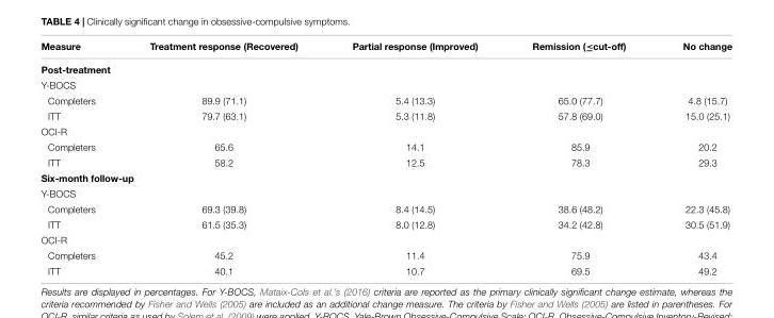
<table><thead><tr><td>Measure</td><td>Treatment response (Recovered)</td><td>Partial response (Improved)</td><td>Remission (≤cut-off)</td><td>No change</td></tr></thead><tbody><tr><td colspan="5">Post-treatment</td></tr><tr><td colspan="5">Y-BOCS</td></tr><tr><td>Completers</td><td>89.9 (71.1)</td><td>5.4 (13.3)</td><td>65.0 (77.7)</td><td>4.8 (15.7)</td></tr><tr><td>ITT</td><td>79.7 (63.1)</td><td>5.3 (11.8)</td><td>57.8 (69.0)</td><td>15.0 (25.1)</td></tr><tr><td colspan="5">OCI-R</td></tr><tr><td>Completers</td><td>65.6</td><td>14.1</td><td>85.9</td><td>20.2</td></tr><tr><td>ITT</td><td>58.2</td><td>12.5</td><td>78.3</td><td>29.3</td></tr><tr><td colspan="5">Six-month follow-up</td></tr><tr><td colspan="5">Y-BOCS</td></tr><tr><td>Completers</td><td>69.3 (39.8)</td><td>8.4 (14.5)</td><td>38.6 (48.2)</td><td>22.3 (45.8)</td></tr><tr><td>ITT</td><td>61.5 (35.3)</td><td>8.0 (12.8)</td><td>34.2 (42.8)</td><td>30.5 (51.9)</td></tr><tr><td colspan="5">OCI-R</td></tr><tr><td>Completers</td><td>45.2</td><td>11.4</td><td>75.9</td><td>43.4</td></tr><tr><td>ITT</td><td>40.1</td><td>10.7</td><td>69.5</td><td>49.2</td></tr></tbody></table>